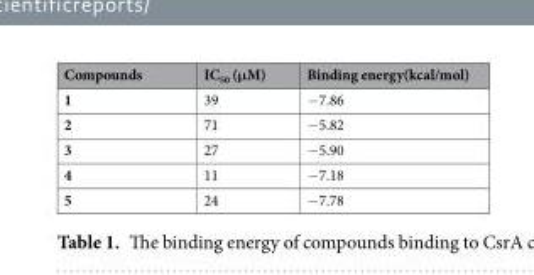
<table><thead><tr><td>Compounds</td><td>IC<sub>50</sub> (μM)</td><td>Binding energy(kcal/mol)</td></tr></thead><tbody><tr><td>1</td><td>39</td><td>−7.86</td></tr><tr><td>2</td><td>71</td><td>−5.82</td></tr><tr><td>3</td><td>27</td><td>−5.90</td></tr><tr><td>4</td><td>11</td><td>−7.18</td></tr><tr><td>5</td><td>24</td><td>−7.78</td></tr></tbody></table>